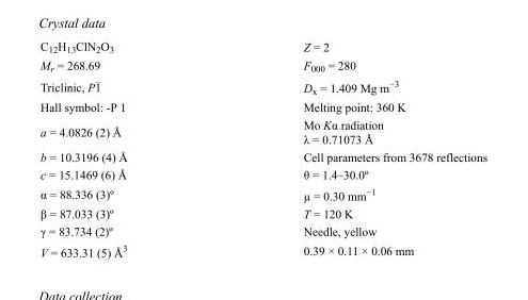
<table><tbody><tr><td>C<sub>12</sub>H<sub>13</sub>ClN<sub>2</sub>O<sub>3</sub></td><td>Z = 2</td></tr><tr><td>M<sub>r</sub> = 268.69</td><td>F000 = 280</td></tr><tr><td>Triclinic, P1</td><td>D<sub>x</sub> = 1.409 Mg m<sup>−3</sup></td></tr><tr><td>Hall symbol: -P 1</td><td>Melting point: 360 K</td></tr><tr><td>a = 4.0826 (2) Å</td><td>Mo Kα radiation λ = 0.71073 Å</td></tr><tr><td>b = 10.3196 (4) Å</td><td>Cell parameters from 3678 reflections</td></tr><tr><td>c = 15.1469 (6) Å</td><td>θ = 1.4–30.0º</td></tr><tr><td>α = 88.336 (3)º</td><td>µ = 0.30 mm<sup>−1</sup></td></tr><tr><td>β = 87.033 (3)º</td><td>T = 120 K</td></tr><tr><td>γ = 83.734 (2)º</td><td>Needle, yellow</td></tr><tr><td>V = 633.31 (5) Å<sup>3</sup></td><td>0.39 × 0.11 × 0.06 mm</td></tr></tbody></table>